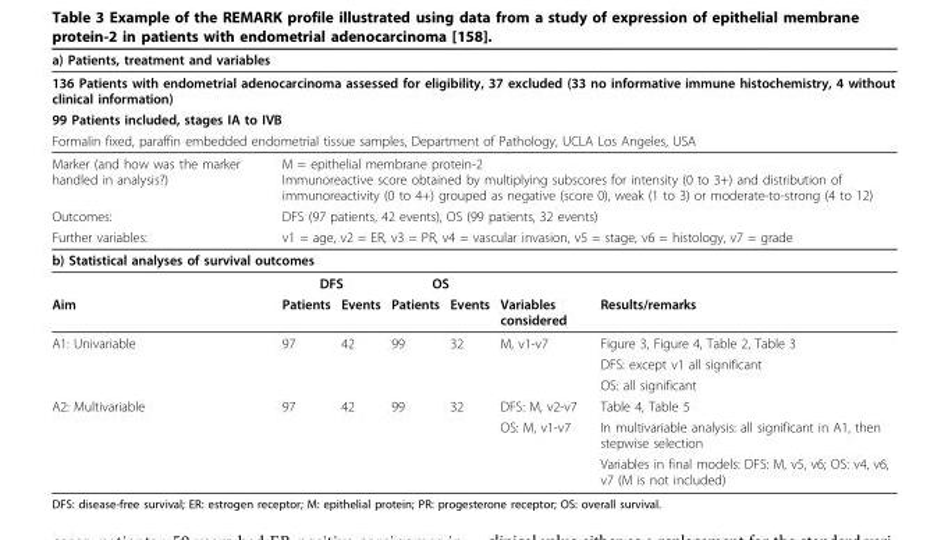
<table><thead><tr><td colspan="7">a) Patients, treatment and variables</td></tr></thead><tbody><tr><td colspan="7">136 Patients with endometrial adenocarcinoma assessed for eligibility, 37 excluded (33 no informative immune histochemistry, 4 without clinical information)</td></tr><tr><td colspan="7">99 Patients included, stages IA to IVB</td></tr><tr><td colspan="7">Formalin fixed, paraffin embedded endometrial tissue samples, Department of Pathology, UCLA Los Angeles, USA</td></tr><tr><td>Marker (and how was the marker handled in analysis?)</td><td colspan="6">M = epithelial membrane protein-2 Immunoreactive score obtained by multiplying subscores for intensity (0 to 3+) and distribution of immunoreactivity (0 to 4+) grouped as negative (score 0), weak (1 to 3) or moderate-to-strong (4 to 12)</td></tr><tr><td>Outcomes:</td><td colspan="6">DFS (97 patients, 42 events), OS (99 patients, 32 events)</td></tr><tr><td>Further variables:</td><td colspan="6">v1 = age, v2 = ER, v3 = PR, v4 = vascular invasion, v5 = stage, v6 = histology, v7 = grade</td></tr><tr><td colspan="7">b) Statistical analyses of survival outcomes</td></tr><tr><td></td><td colspan="2">DFS</td><td colspan="2">OS</td><td></td><td></td></tr><tr><td>Aim</td><td>Patients</td><td>Events</td><td>Patients</td><td>Events</td><td>Variables considered</td><td>Results/remarks</td></tr><tr><td rowspan="3">A1: Univariable</td><td>97</td><td>42</td><td>99</td><td>32</td><td>M, v1-v7</td><td>Figure 3, Figure 4, Table 2, Table 3</td></tr><tr><td></td><td></td><td></td><td></td><td></td><td>DFS: except v1 all significant</td></tr><tr><td></td><td></td><td></td><td></td><td></td><td>OS: all significant</td></tr><tr><td rowspan="3">A2: Multivariable</td><td>97</td><td>42</td><td>99</td><td>32</td><td>DFS: M, v2-v7</td><td>Table 4, Table 5</td></tr><tr><td></td><td></td><td></td><td></td><td>OS: M, v1-v7</td><td>In multivariable analysis: all significant in A1, then stepwise selection</td></tr><tr><td></td><td></td><td></td><td></td><td></td><td>Variables in final models: DFS: M, v5, v6; OS: v4, v6, v7 (M is not included)</td></tr></tbody></table>